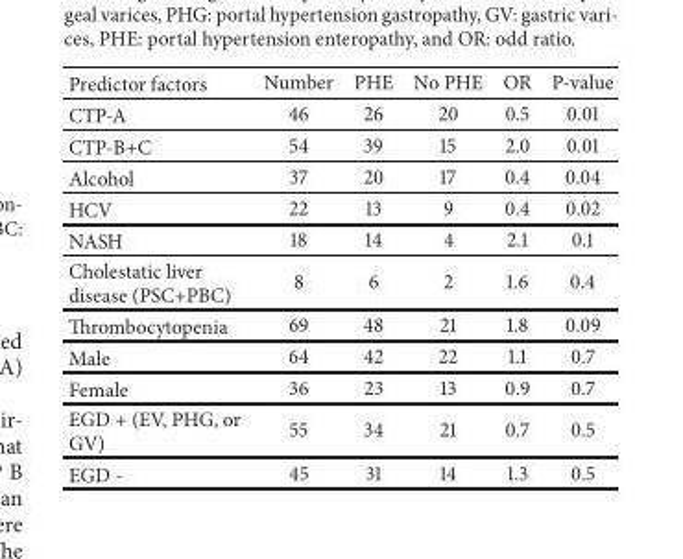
<table><thead><tr><td>Predictor factors</td><td>Number</td><td>PHE</td><td>No PHE</td><td>OR</td><td>P-value</td></tr></thead><tbody><tr><td>CTP-A</td><td>46</td><td>26</td><td>20</td><td>0.5</td><td>0.01</td></tr><tr><td>CTP-B+C</td><td>54</td><td>39</td><td>15</td><td>2.0</td><td>0.01</td></tr><tr><td>Alcohol</td><td>37</td><td>20</td><td>17</td><td>0.4</td><td>0.04</td></tr><tr><td>HCV</td><td>22</td><td>13</td><td>9</td><td>0.4</td><td>0.02</td></tr><tr><td>NASH</td><td>18</td><td>14</td><td>4</td><td>2.1</td><td>0.1</td></tr><tr><td>Cholestatic liver disease (PSC+PBC)</td><td>8</td><td>6</td><td>2</td><td>1.6</td><td>0.4</td></tr><tr><td>Thrombocytopenia</td><td>69</td><td>48</td><td>21</td><td>1.8</td><td>0.09</td></tr><tr><td>Male</td><td>64</td><td>42</td><td>22</td><td>1.1</td><td>0.7</td></tr><tr><td>Female</td><td>36</td><td>23</td><td>13</td><td>0.9</td><td>0.7</td></tr><tr><td>EGD + (EV, PHG, or GV)</td><td>55</td><td>34</td><td>21</td><td>0.7</td><td>0.5</td></tr><tr><td>EGD -</td><td>45</td><td>31</td><td>14</td><td>1.3</td><td>0.5</td></tr></tbody></table>